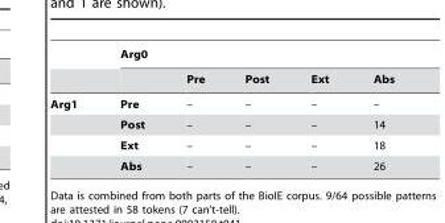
<table><thead><tr><td rowspan="2"></td><td colspan="5">Arg0</td></tr><tr><td></td><td>Pre</td><td>Post</td><td>Ext</td><td>Abs</td></tr></thead><tbody><tr><td rowspan="4">Arg1</td><td>Pre</td><td>–</td><td>–</td><td>–</td><td>–</td></tr><tr><td>Post</td><td>–</td><td>–</td><td>–</td><td>14</td></tr><tr><td>Ext</td><td>–</td><td>–</td><td>–</td><td>18</td></tr><tr><td>Abs</td><td>–</td><td>–</td><td>–</td><td>26</td></tr></tbody></table>